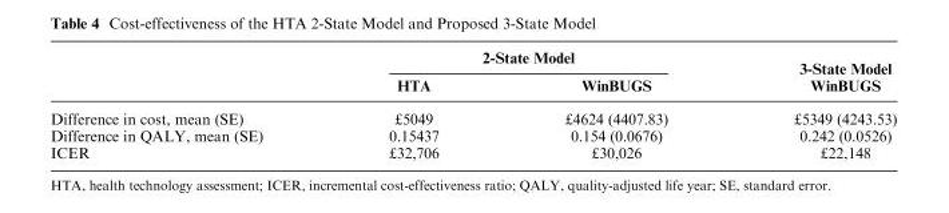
<table><thead><tr><td rowspan="2"></td><td colspan="2">2-State Model</td><td rowspan="2">3-State Model WinBUGS</td></tr><tr><td>HTA</td><td>WinBUGS</td></tr></thead><tbody><tr><td>Difference in cost, mean (SE)</td><td>£5049</td><td>£4624 (4407.83)</td><td>£5349 (4243.53)</td></tr><tr><td>Difference in QALY, mean (SE)</td><td>0.15437</td><td>0.154 (0.0676)</td><td>0.242 (0.0526)</td></tr><tr><td>ICER</td><td>£32,706</td><td>£30,026</td><td>£22,148</td></tr></tbody></table>